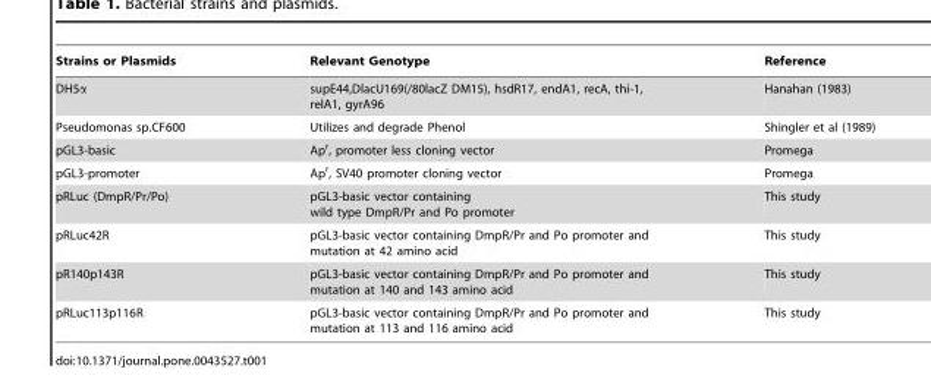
<table><thead><tr><td>Strains or Plasmids</td><td>Relevant Genotype</td><td>Reference</td></tr></thead><tbody><tr><td>DH5α</td><td>supE44,DlacU169(/80lacZ DM15), hsdR17, endA1, recA, thi-1, relA1, gyrA96</td><td>Hanahan (1983)</td></tr><tr><td>Pseudomonas sp.CF600</td><td>Utilizes and degrade Phenol</td><td>Shingler et al (1989)</td></tr><tr><td>pGL3-basic</td><td>Ap<sup>r</sup>, promoter less cloning vector</td><td>Promega</td></tr><tr><td>pGL3-promoter</td><td>Ap<sup>r</sup>, SV40 promoter cloning vector</td><td>Promega</td></tr><tr><td>pRLuc (DmpR/Pr/Po)</td><td>pGL3-basic vector containing wild type DmpR/Pr and Po promoter</td><td>This study</td></tr><tr><td>pRLuc42R</td><td>pGL3-basic vector containing DmpR/Pr and Po promoter and mutation at 42 amino acid</td><td>This study</td></tr><tr><td>pR140p143R</td><td>pGL3-basic vector containing DmpR/Pr and Po promoter and mutation at 140 and 143 amino acid</td><td>This study</td></tr><tr><td>pRLuc113p116R</td><td>pGL3-basic vector containing DmpR/Pr and Po promoter and mutation at 113 and 116 amino acid</td><td>This study</td></tr></tbody></table>